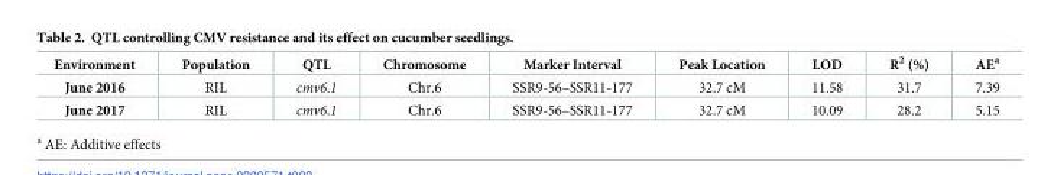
<table><thead><tr><td>Environment</td><td>Population</td><td>QTL</td><td>Chromosome</td><td>Marker Interval</td><td>Peak Location</td><td>LOD</td><td>R<sup>2</sup> (%)</td><td>AE<sup>a</sup></td></tr></thead><tbody><tr><td>June 2016</td><td>RIL</td><td>cmv6.1</td><td>Chr.6</td><td>SSR9-56–SSR11-177</td><td>32.7 cM</td><td>11.58</td><td>31.7</td><td>7.39</td></tr><tr><td>June 2017</td><td>RIL</td><td>cmv6.1</td><td>Chr.6</td><td>SSR9-56–SSR11-177</td><td>32.7 cM</td><td>10.09</td><td>28.2</td><td>5.15</td></tr></tbody></table>